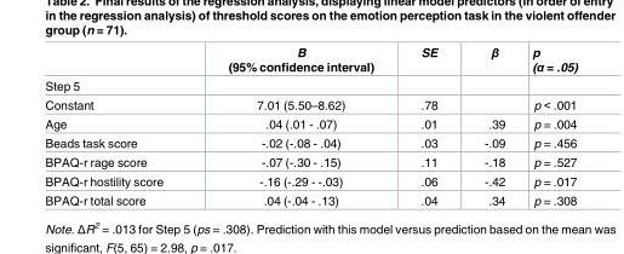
<table><thead><tr><td></td><td>B (95% confidence interval)</td><td>SE</td><td>β</td><td>p (α = .05)</td></tr></thead><tbody><tr><td colspan="5">Step 5</td></tr><tr><td>Constant</td><td>7.01 (5.50–8.62)</td><td>.78</td><td></td><td>p &lt; .001</td></tr><tr><td>Age</td><td>.04 (.01 - .07)</td><td>.01</td><td>.39</td><td>p = .004</td></tr><tr><td>Beads task score</td><td>-.02 (-.08 - .04)</td><td>.03</td><td>-.09</td><td>p = .456</td></tr><tr><td>BPAQ-r rage score</td><td>-.07 (-.30 - .15)</td><td>.11</td><td>-.18</td><td>p = .527</td></tr><tr><td>BPAQ-r hostility score</td><td>-.16 (-.29 - -.03)</td><td>.06</td><td>-.42</td><td>p = .017</td></tr><tr><td>BPAQ-r total score</td><td>.04 (-.04 - .13)</td><td>.04</td><td>.34</td><td>p = .308</td></tr></tbody></table>